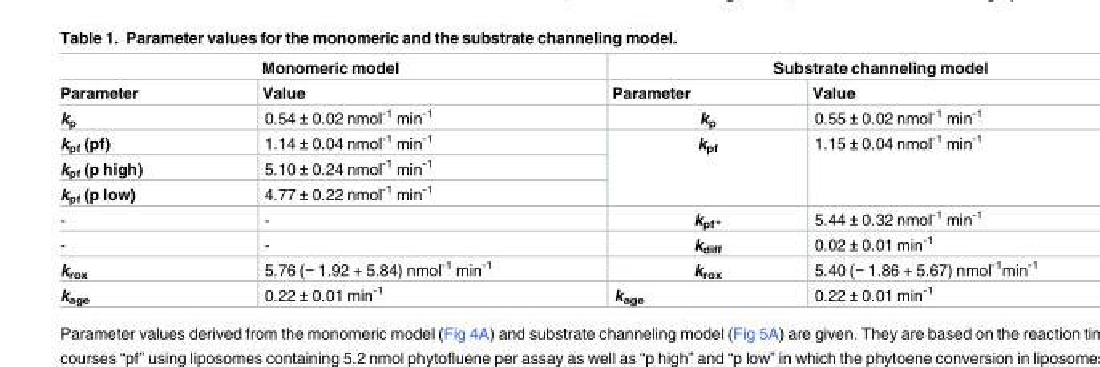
<table><thead><tr><td colspan="2">Monomeric model</td><td colspan="2">Substrate channeling model</td></tr><tr><td>Parameter</td><td>Value</td><td>Parameter</td><td>Value</td></tr></thead><tbody><tr><td>k<sub>p</sub></td><td>0.54 ± 0.02 nmol<sup>-1</sup> min<sup>-1</sup></td><td>k<sub>p</sub></td><td>0.55 ± 0.02 nmol<sup>-1</sup> min<sup>-1</sup></td></tr><tr><td>k<sub>pf</sub> (pf)</td><td>1.14 ± 0.04 nmol<sup>-1</sup> min<sup>-1</sup></td><td rowspan="3">k<sub>pf</sub></td><td rowspan="3">1.15 ± 0.04 nmol<sup>-1</sup> min<sup>-1</sup></td></tr><tr><td>k<sub>pf</sub> (p high)</td><td>5.10 ± 0.24 nmol<sup>-1</sup> min<sup>-1</sup></td></tr><tr><td>k<sub>pf</sub> (p low)</td><td>4.77 ± 0.22 nmol<sup>-1</sup> min<sup>-1</sup></td></tr><tr><td>-</td><td>-</td><td>k<sub>pf*</sub></td><td>5.44 ± 0.32 nmol<sup>-1</sup> min<sup>-1</sup></td></tr><tr><td>-</td><td>-</td><td>k<sub>diff</sub></td><td>0.02 ± 0.01 min<sup>-1</sup></td></tr><tr><td>k<sub>rox</sub></td><td>5.76 (− 1.92 + 5.84) nmol<sup>-1</sup> min<sup>-1</sup></td><td>k<sub>rox</sub></td><td>5.40 (− 1.86 + 5.67) nmol<sup>-1</sup>min<sup>-1</sup></td></tr><tr><td>k<sub>age</sub></td><td>0.22 ± 0.01 min<sup>-1</sup></td><td>k<sub>age</sub></td><td>0.22 ± 0.01 min<sup>-1</sup></td></tr></tbody></table>